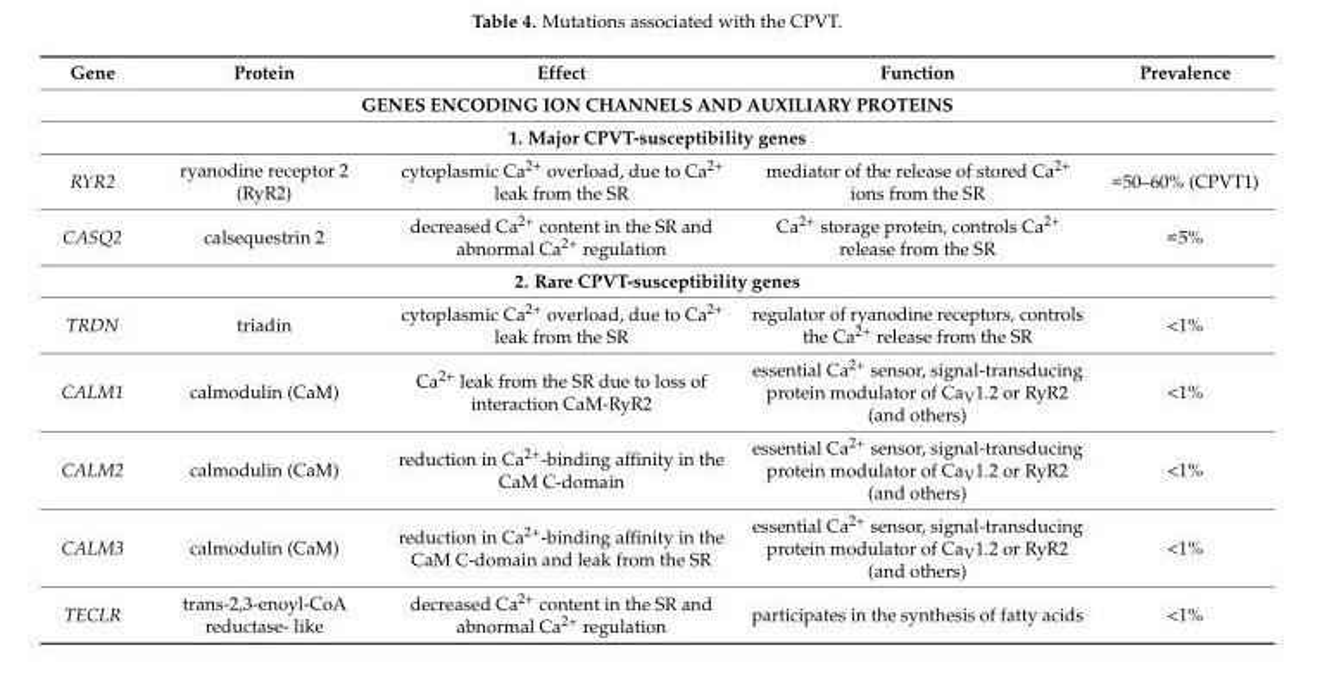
<table><thead><tr><td>Gene</td><td>Protein</td><td>Effect</td><td>Function</td><td>Prevalence</td></tr><tr><td rowspan="2" colspan="5">GENES ENCODING ION CHANNELS AND AUXILIARY PROTEINS 1. Major CPVT-susceptibility genes</td></tr><tr></tr></thead><tbody><tr><td>RYR2</td><td>ryanodine receptor 2 (RyR2)</td><td>cytoplasmic Ca<sup>2+</sup> overload, due to Ca<sup>2+</sup> leak from the SR</td><td>mediator of the release of stored Ca<sup>2+</sup> ions from the SR</td><td>50–60% (CPVT1)</td></tr><tr><td>CASQ2</td><td>calsequestrin 2</td><td>decreased Ca<sup>2+</sup> content in the SR and abnormal Ca<sup>2+</sup> regulation</td><td>Ca<sup>2+</sup> storage protein, controls Ca<sup>2+</sup> release from the SR</td><td>5%</td></tr><tr><td colspan="5">2. Rare CPVT-susceptibility genes</td></tr><tr><td>TRDN</td><td>triadin</td><td>cytoplasmic Ca<sup>2+</sup> overload, due to Ca<sup>2+</sup> leak from the SR</td><td>regulator of ryanodine receptors, controls the Ca<sup>2+</sup> release from the SR</td><td>&lt;1%</td></tr><tr><td>CALM1</td><td>calmodulin (CaM)</td><td>Ca<sup>2+</sup> leak from the SR due to loss of interaction CaM-RyR2</td><td>essential Ca<sup>2+</sup> sensor, signal-transducing protein modulator of Ca<sub>V</sub>1.2 or RyR2 (and others)</td><td>&lt;1%</td></tr><tr><td>CALM2</td><td>calmodulin (CaM)</td><td>reduction in Ca<sup>2+</sup>-binding affinity in the CaM C-domain</td><td>essential Ca<sup>2+</sup> sensor, signal-transducing protein modulator of Ca<sub>V</sub>1.2 or RyR2 (and others)</td><td>&lt;1%</td></tr><tr><td>CALM3</td><td>calmodulin (CaM)</td><td>reduction in Ca<sup>2+</sup>-binding affinity in the CaM C-domain and leak from the SR</td><td>essential Ca<sup>2+</sup> sensor, signal-transducing protein modulator of Ca<sub>V</sub>1.2 or RyR2 (and others)</td><td>&lt;1%</td></tr><tr><td>TECLR</td><td>trans-2,3-enoyl-CoA reductase- like</td><td>decreased Ca<sup>2+</sup> content in the SR and abnormal Ca<sup>2+</sup> regulation</td><td>participates in the synthesis of fatty acids</td><td>&lt;1%</td></tr></tbody></table>